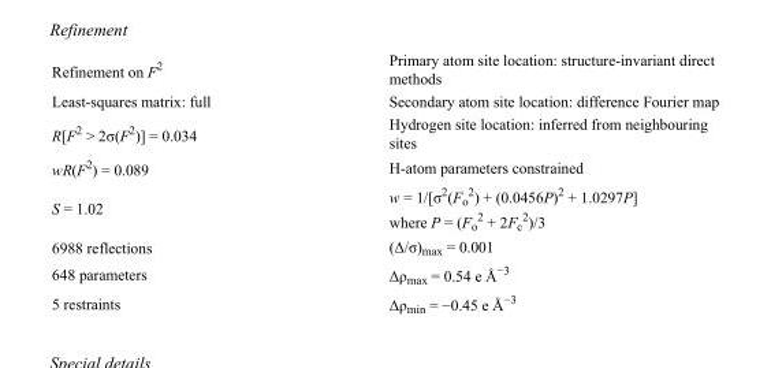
<table><tbody><tr><td>Refinement on F<sup>2</sup></td><td>Primary atom site location: structure-invariant direct methods</td></tr><tr><td>Least-squares matrix: full</td><td>Secondary atom site location: difference Fourier map</td></tr><tr><td>R[F<sup>2</sup> &gt; 2σ(F<sup>2</sup>)] = 0.034</td><td>Hydrogen site location: inferred from neighbouring sites</td></tr><tr><td>wR(F<sup>2</sup>) = 0.089</td><td>H-atom parameters constrained</td></tr><tr><td>S = 1.02</td><td>w = 1/[σ<sup>2</sup>(F<sub>o</sub> <sup>2</sup>) + (0.0456P)<sup>2</sup> + 1.0297P] where P = (F<sub>o</sub> <sup>2</sup> + 2F<sub>c</sub> <sup>2</sup>)/3</td></tr><tr><td>6988 reflections</td><td>(Δ/σ)<sub>max</sub> = 0.001</td></tr><tr><td>648 parameters</td><td>Δρ<sub>max</sub> = 0.54 e Å<sup>−3</sup></td></tr><tr><td>5 restraints</td><td>Δρ<sub>min</sub> = −0.45 e Å<sup>−3</sup></td></tr></tbody></table>